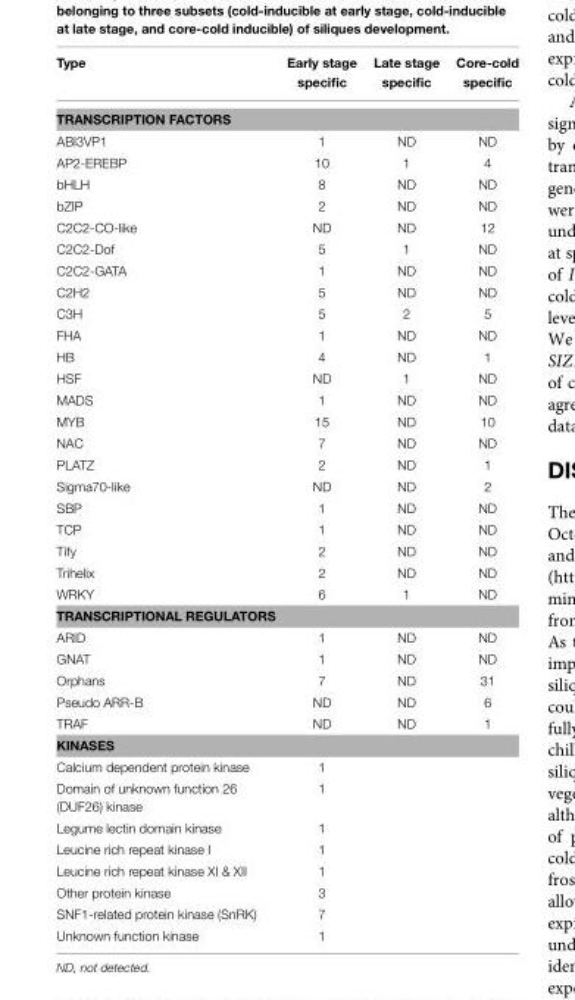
<table><thead><tr><td>Type</td><td>Early stage specific</td><td>Late stage specific</td><td>Core-cold specific</td></tr></thead><tbody><tr><td colspan="4">TRANSCRIPTION FACTORS</td></tr><tr><td>ABI3VP1</td><td>1</td><td>ND</td><td>ND</td></tr><tr><td>AP2-EREBP</td><td>10</td><td>1</td><td>4</td></tr><tr><td>bHLH</td><td>8</td><td>ND</td><td>ND</td></tr><tr><td>bZIP</td><td>2</td><td>ND</td><td>ND</td></tr><tr><td>C2C2-CO-like</td><td>ND</td><td>ND</td><td>12</td></tr><tr><td>C2C2-Dof</td><td>5</td><td>1</td><td>ND</td></tr><tr><td>C2C2-GATA</td><td>1</td><td>ND</td><td>ND</td></tr><tr><td>C2H2</td><td>5</td><td>ND</td><td>ND</td></tr><tr><td>C3H</td><td>5</td><td>2</td><td>5</td></tr><tr><td>FHA</td><td>1</td><td>ND</td><td>ND</td></tr><tr><td>HB</td><td>4</td><td>ND</td><td>1</td></tr><tr><td>HSF</td><td>ND</td><td>1</td><td>ND</td></tr><tr><td>MADS</td><td>1</td><td>ND</td><td>ND</td></tr><tr><td>MYB</td><td>15</td><td>ND</td><td>10</td></tr><tr><td>NAC</td><td>7</td><td>ND</td><td>ND</td></tr><tr><td>PLATZ</td><td>2</td><td>ND</td><td>1</td></tr><tr><td>Sigma70-like</td><td>ND</td><td>ND</td><td>2</td></tr><tr><td>SBP</td><td>1</td><td>ND</td><td>ND</td></tr><tr><td>TCP</td><td>1</td><td>ND</td><td>ND</td></tr><tr><td>Tify</td><td>2</td><td>ND</td><td>ND</td></tr><tr><td>Trihelix</td><td>2</td><td>ND</td><td>ND</td></tr><tr><td>WRKY</td><td>6</td><td>1</td><td>ND</td></tr><tr><td colspan="4">TRANSCRIPTIONAL REGULATORS</td></tr><tr><td>ARID</td><td>1</td><td>ND</td><td>ND</td></tr><tr><td>GNAT</td><td>1</td><td>ND</td><td>ND</td></tr><tr><td>Orphans</td><td>7</td><td>ND</td><td>31</td></tr><tr><td>Pseudo ARR-B</td><td>ND</td><td>ND</td><td>6</td></tr><tr><td>TRAF</td><td>ND</td><td>ND</td><td>1</td></tr><tr><td colspan="4">KINASES</td></tr><tr><td>Calcium dependent protein kinase</td><td>1</td><td></td><td></td></tr><tr><td>Domain of unknown function 26 (DUF26) kinase</td><td>1</td><td></td><td></td></tr><tr><td>Legume lectin domain kinase</td><td>1</td><td></td><td></td></tr><tr><td>Leucine rich repeat kinase I</td><td>1</td><td></td><td></td></tr><tr><td>Leucine rich repeat kinase XI &amp; XII</td><td>1</td><td></td><td></td></tr><tr><td>Other protein kinase</td><td>3</td><td></td><td></td></tr><tr><td>SNF1-related protein kinase (SnRK)</td><td>7</td><td></td><td></td></tr><tr><td>Unknown function kinase</td><td>1</td><td></td><td></td></tr></tbody></table>